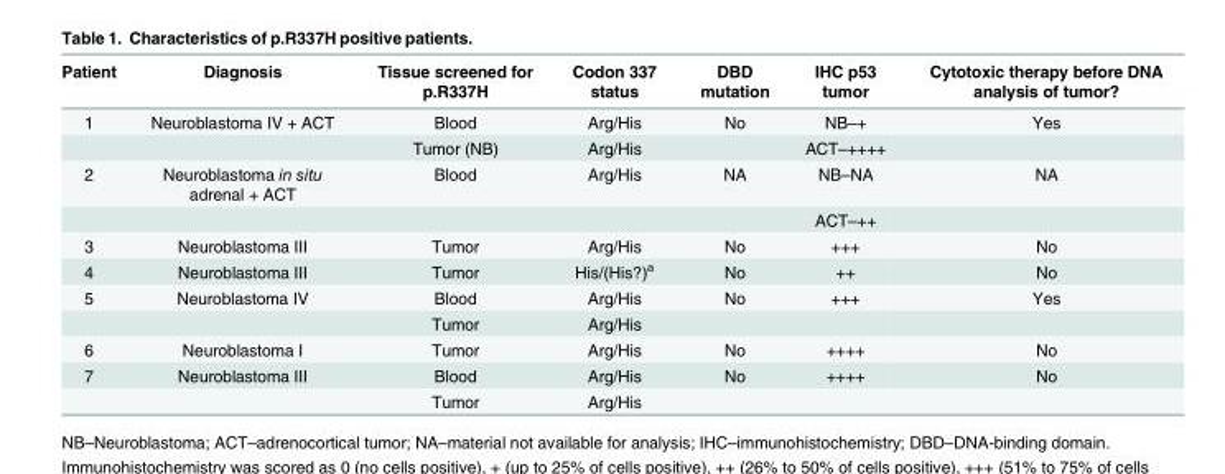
<table><thead><tr><td>Patient</td><td>Diagnosis</td><td>Tissue screened for p.R337H</td><td>Codon 337 status</td><td>DBD mutation</td><td>IHC p53 tumor</td><td>Cytotoxic therapy before DNA analysis of tumor?</td></tr></thead><tbody><tr><td rowspan="2">1</td><td>Neuroblastoma IV + ACT</td><td>Blood</td><td>Arg/His</td><td>No</td><td>NB–+</td><td>Yes</td></tr><tr><td></td><td>Tumor (NB)</td><td>Arg/His</td><td></td><td>ACT–++++</td><td></td></tr><tr><td rowspan="2">2</td><td>Neuroblastoma in situ adrenal + ACT</td><td>Blood</td><td>Arg/His</td><td>NA</td><td>NB–NA</td><td>NA</td></tr><tr><td></td><td></td><td></td><td></td><td>ACT–++</td><td></td></tr><tr><td>3</td><td>Neuroblastoma III</td><td>Tumor</td><td>Arg/His</td><td>No</td><td>+++</td><td>No</td></tr><tr><td>4</td><td>Neuroblastoma III</td><td>Tumor</td><td>His/(His?)<sup>a</sup></td><td>No</td><td>++</td><td>No</td></tr><tr><td rowspan="2">5</td><td>Neuroblastoma IV</td><td>Blood</td><td>Arg/His</td><td>No</td><td>+++</td><td>Yes</td></tr><tr><td></td><td>Tumor</td><td>Arg/His</td><td></td><td></td><td></td></tr><tr><td>6</td><td>Neuroblastoma I</td><td>Tumor</td><td>Arg/His</td><td>No</td><td>++++</td><td>No</td></tr><tr><td rowspan="2">7</td><td>Neuroblastoma III</td><td>Blood</td><td>Arg/His</td><td>No</td><td>++++</td><td>No</td></tr><tr><td></td><td>Tumor</td><td>Arg/His</td><td></td><td></td><td></td></tr></tbody></table>